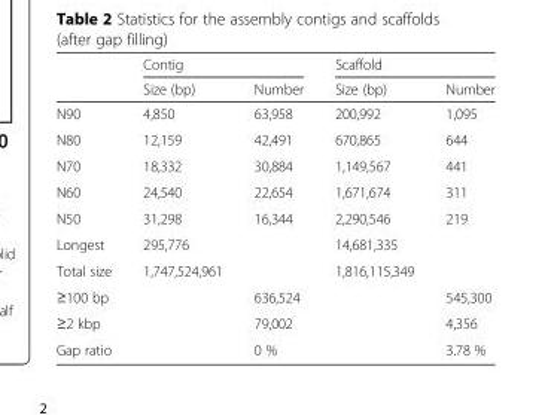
<table><thead><tr><td rowspan="2"></td><td colspan="2">Contig</td><td colspan="2">Scaffold</td></tr><tr><td>Size (bp)</td><td>Number</td><td>Size (bp)</td><td>Number</td></tr></thead><tbody><tr><td>N90</td><td>4,850</td><td>63,958</td><td>200,992</td><td>1,095</td></tr><tr><td>N80</td><td>12,159</td><td>42,491</td><td>670,865</td><td>644</td></tr><tr><td>N70</td><td>18,332</td><td>30,884</td><td>1,149,567</td><td>441</td></tr><tr><td>N60</td><td>24,540</td><td>22,654</td><td>1,671,674</td><td>311</td></tr><tr><td>N50</td><td>31,298</td><td>16,344</td><td>2,290,546</td><td>219</td></tr><tr><td>Longest</td><td>295,776</td><td></td><td>14,681,335</td><td></td></tr><tr><td>Total size</td><td>1,747,524,961</td><td></td><td>1,816,115,349</td><td></td></tr><tr><td>≥100 bp</td><td></td><td>636,524</td><td></td><td>545,300</td></tr><tr><td>≥2 kbp</td><td></td><td>79,002</td><td></td><td>4,356</td></tr><tr><td>Gap ratio</td><td></td><td>0 %</td><td></td><td>3.78 %</td></tr></tbody></table>